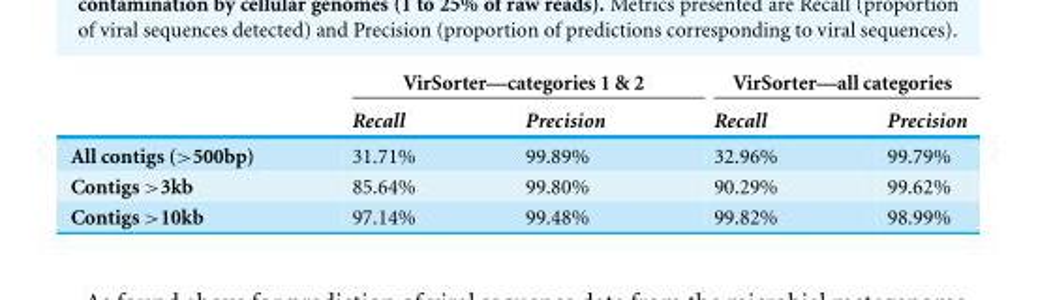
<table><thead><tr><td rowspan="2"></td><td colspan="2">VirSorter—categories 1 &amp; 2</td><td colspan="2">VirSorter—all categories</td></tr><tr><td>Recall</td><td>Precision</td><td>Recall</td><td>Precision</td></tr></thead><tbody><tr><td>All contigs (&gt;500bp)</td><td>31.71%</td><td>99.89%</td><td>32.96%</td><td>99.79%</td></tr><tr><td>Contigs &gt;3kb</td><td>85.64%</td><td>99.80%</td><td>90.29%</td><td>99.62%</td></tr><tr><td>Contigs &gt;10kb</td><td>97.14%</td><td>99.48%</td><td>99.82%</td><td>98.99%</td></tr></tbody></table>